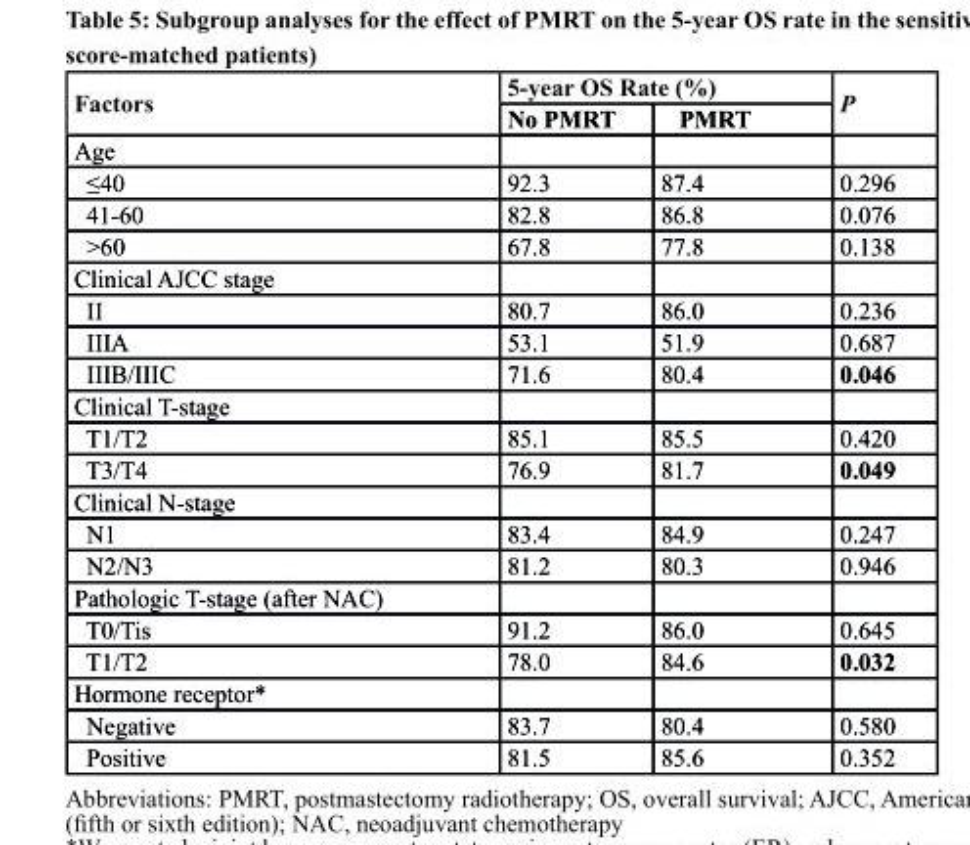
<table><thead><tr><td rowspan="2">Factors</td><td colspan="2">5-year os rate (%)</td><td rowspan="2">P</td></tr><tr><td>no Pmrt</td><td>Pmrt</td></tr></thead><tbody><tr><td colspan="4">Age</td></tr><tr><td>≤40</td><td>92.3</td><td>87.4</td><td>0.296</td></tr><tr><td>41-60</td><td>82.8</td><td>86.8</td><td>0.076</td></tr><tr><td>&gt;60</td><td>67.8</td><td>77.8</td><td>0.138</td></tr><tr><td colspan="4">Clinical AJCC stage</td></tr><tr><td>II</td><td>80.7</td><td>86.0</td><td>0.236</td></tr><tr><td>IIIA</td><td>53.1</td><td>51.9</td><td>0.687</td></tr><tr><td>IIIB/IIIC</td><td>71.6</td><td>80.4</td><td>0.046</td></tr><tr><td colspan="4">Clinical T-stage</td></tr><tr><td>T1/T2</td><td>85.1</td><td>85.5</td><td>0.420</td></tr><tr><td>T3/T4</td><td>76.9</td><td>81.7</td><td>0.049</td></tr><tr><td colspan="4">Clinical N-stage</td></tr><tr><td>N1</td><td>83.4</td><td>84.9</td><td>0.247</td></tr><tr><td>N2/N3</td><td>81.2</td><td>80.3</td><td>0.946</td></tr><tr><td colspan="4">Pathologic T-stage (after NAC)</td></tr><tr><td>T0/Tis</td><td>91.2</td><td>86.0</td><td>0.645</td></tr><tr><td>T1/T2</td><td>78.0</td><td>84.6</td><td>0.032</td></tr><tr><td colspan="4">Hormone receptor*</td></tr><tr><td>Negative</td><td>83.7</td><td>80.4</td><td>0.580</td></tr><tr><td>Positive</td><td>81.5</td><td>85.6</td><td>0.352</td></tr></tbody></table>